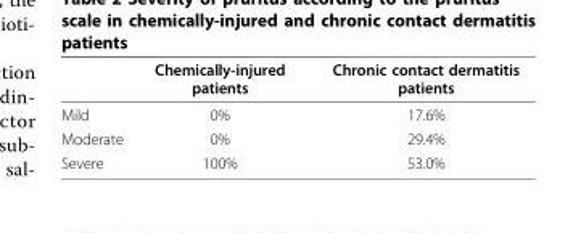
<table><thead><tr><td></td><td>Chemically-injured patients</td><td>Chronic contact dermatitis patients</td></tr></thead><tbody><tr><td>Mild</td><td>0%</td><td>17.6%</td></tr><tr><td>Moderate</td><td>0%</td><td>29.4%</td></tr><tr><td>Severe</td><td>100%</td><td>53.0%</td></tr></tbody></table>